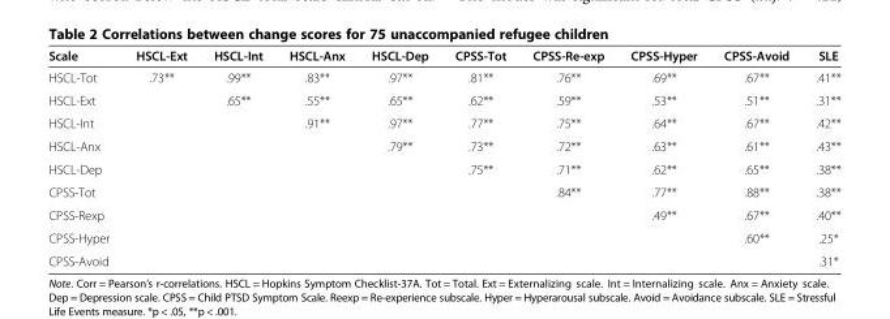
<table><thead><tr><td>Scale</td><td>HSCL-Ext</td><td>HSCL-Int</td><td>HSCL-Anx</td><td>HSCL-Dep</td><td>CPSS-Tot</td><td>CPSS-Re-exp</td><td>CPSS-Hyper</td><td>CPSS-Avoid</td><td>SLE</td></tr></thead><tbody><tr><td>HSCL-Tot</td><td>.73**</td><td>.99**</td><td>.83**</td><td>.97**</td><td>.81**</td><td>.76**</td><td>.69**</td><td>.67**</td><td>.41**</td></tr><tr><td>HSCL-Ext</td><td></td><td>.65**</td><td>.55**</td><td>.65**</td><td>.62**</td><td>.59**</td><td>.53**</td><td>.51**</td><td>.31**</td></tr><tr><td>HSCL-Int</td><td></td><td></td><td>.91**</td><td>.97**</td><td>.77**</td><td>.75**</td><td>.64**</td><td>.67**</td><td>.42**</td></tr><tr><td>HSCL-Anx</td><td></td><td></td><td></td><td>.79**</td><td>.73**</td><td>.72**</td><td>.63**</td><td>.61**</td><td>.43**</td></tr><tr><td>HSCL-Dep</td><td></td><td></td><td></td><td></td><td>.75**</td><td>.71**</td><td>.62**</td><td>.65**</td><td>.38**</td></tr><tr><td>CPSS-Tot</td><td></td><td></td><td></td><td></td><td></td><td>.84**</td><td>.77**</td><td>.88**</td><td>.38**</td></tr><tr><td>CPSS-Rexp</td><td></td><td></td><td></td><td></td><td></td><td></td><td>.49**</td><td>.67**</td><td>.40**</td></tr><tr><td>CPSS-Hyper</td><td></td><td></td><td></td><td></td><td></td><td></td><td></td><td>.60**</td><td>.25*</td></tr><tr><td>CPSS-Avoid</td><td></td><td></td><td></td><td></td><td></td><td></td><td></td><td></td><td>.31*</td></tr></tbody></table>